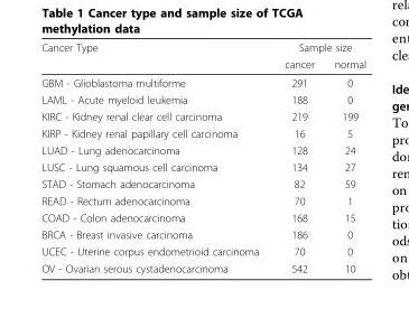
<table><thead><tr><td rowspan="2">Cancer Type</td><td colspan="2">Sample size</td></tr><tr><td>cancer</td><td>normal</td></tr></thead><tbody><tr><td>GBM - Glioblastoma multiforme</td><td>291</td><td>0</td></tr><tr><td>LAML - Acute myeloid leukemia</td><td>188</td><td>0</td></tr><tr><td>KIRC - Kidney renal clear cell carcinoma</td><td>219</td><td>199</td></tr><tr><td>KIRP - Kidney renal papillary cell carcinoma</td><td>16</td><td>5</td></tr><tr><td>LUAD - Lung adenocarcinoma</td><td>128</td><td>24</td></tr><tr><td>LUSC - Lung squamous cell carcinoma</td><td>134</td><td>27</td></tr><tr><td>STAD - Stomach adenocarcinoma</td><td>82</td><td>59</td></tr><tr><td>READ - Rectum adenocarcinoma</td><td>70</td><td>1</td></tr><tr><td>COAD - Colon adenocarcinoma</td><td>168</td><td>15</td></tr><tr><td>BRCA - Breast invasive carcinoma</td><td>186</td><td>0</td></tr><tr><td>UCEC - Uterine corpus endometrioid carcinoma</td><td>70</td><td>0</td></tr><tr><td>OV - Ovarian serous cystadenocarcinoma</td><td>542</td><td>10</td></tr></tbody></table>